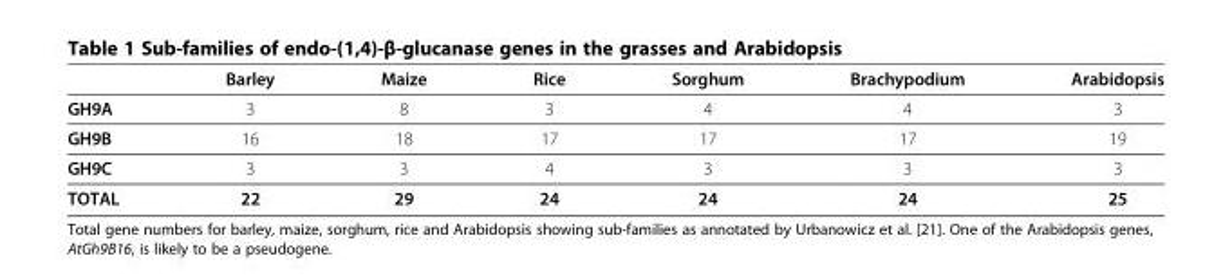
<table><thead><tr><td></td><td>Barley</td><td>Maize</td><td>Rice</td><td>Sorghum</td><td>Brachypodium</td><td>Arabidopsis</td></tr></thead><tbody><tr><td>GH9A</td><td>3</td><td>8</td><td>3</td><td>4</td><td>4</td><td>3</td></tr><tr><td>GH9B</td><td>16</td><td>18</td><td>17</td><td>17</td><td>17</td><td>19</td></tr><tr><td>GH9C</td><td>3</td><td>3</td><td>4</td><td>3</td><td>3</td><td>3</td></tr><tr><td>TOTAL</td><td>22</td><td>29</td><td>24</td><td>24</td><td>24</td><td>25</td></tr></tbody></table>